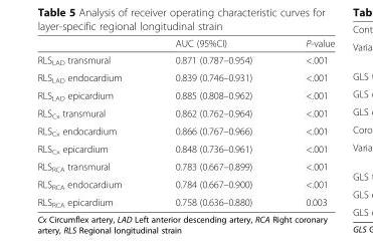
<table><thead><tr><td></td><td>AUC (95%CI)</td><td>P-value</td></tr></thead><tbody><tr><td>RLS<sub>LAD</sub> transmural</td><td>0.871 (0.787–0.954)</td><td>&lt;.001</td></tr><tr><td>RLS<sub>LAD</sub> endocardium</td><td>0.839 (0.746–0.931)</td><td>&lt;.001</td></tr><tr><td>RLS<sub>LAD</sub> epicardium</td><td>0.885 (0.808–0.962)</td><td>&lt;.001</td></tr><tr><td>RLS<sub>Cx</sub> transmural</td><td>0.862 (0.762–0.964)</td><td>&lt;.001</td></tr><tr><td>RLS<sub>Cx</sub> endocardium</td><td>0.866 (0.767–0.966)</td><td>&lt;.001</td></tr><tr><td>RLS<sub>Cx</sub> epicardium</td><td>0.848 (0.736–0.961)</td><td>&lt;.001</td></tr><tr><td>RLS<sub>RCA</sub> transmural</td><td>0.783 (0.667–0.899)</td><td>&lt;.001</td></tr><tr><td>RLS<sub>RCA</sub> endocardium</td><td>0.784 (0.667–0.900)</td><td>&lt;.001</td></tr><tr><td>RLS<sub>RCA</sub> epicardium</td><td>0.758 (0.636–0.880)</td><td>0.003</td></tr></tbody></table>